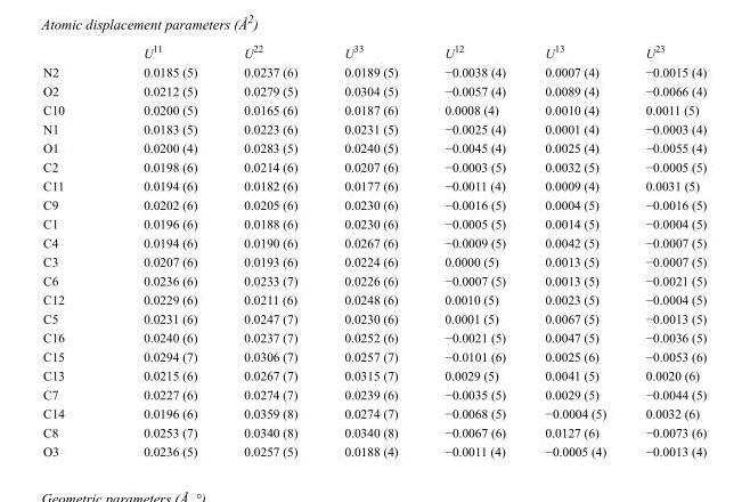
<table><thead><tr><td></td><td>U<sup>11</sup></td><td>U<sup>22</sup></td><td>U<sup>33</sup></td><td>U<sup>12</sup></td><td>U<sup>13</sup></td><td>U<sup>23</sup></td></tr></thead><tbody><tr><td>N2</td><td>0.0185 (5)</td><td>0.0237 (6)</td><td>0.0189 (5)</td><td>−0.0038 (4)</td><td>0.0007 (4)</td><td>−0.0015 (4)</td></tr><tr><td>O2</td><td>0.0212 (5)</td><td>0.0279 (5)</td><td>0.0304 (5)</td><td>−0.0057 (4)</td><td>0.0089 (4)</td><td>−0.0066 (4)</td></tr><tr><td>C10</td><td>0.0200 (5)</td><td>0.0165 (6)</td><td>0.0187 (6)</td><td>0.0008 (4)</td><td>0.0010 (4)</td><td>0.0011 (5)</td></tr><tr><td>N1</td><td>0.0183 (5)</td><td>0.0223 (6)</td><td>0.0231 (5)</td><td>−0.0025 (4)</td><td>0.0001 (4)</td><td>−0.0003 (4)</td></tr><tr><td>O1</td><td>0.0200 (4)</td><td>0.0283 (5)</td><td>0.0240 (5)</td><td>−0.0045 (4)</td><td>0.0025 (4)</td><td>−0.0055 (4)</td></tr><tr><td>C2</td><td>0.0198 (6)</td><td>0.0214 (6)</td><td>0.0207 (6)</td><td>−0.0003 (5)</td><td>0.0032 (5)</td><td>−0.0005 (5)</td></tr><tr><td>C11</td><td>0.0194 (6)</td><td>0.0182 (6)</td><td>0.0177 (6)</td><td>−0.0011 (4)</td><td>0.0009 (4)</td><td>0.0031 (5)</td></tr><tr><td>C9</td><td>0.0202 (6)</td><td>0.0205 (6)</td><td>0.0230 (6)</td><td>−0.0016 (5)</td><td>0.0004 (5)</td><td>−0.0016 (5)</td></tr><tr><td>C1</td><td>0.0196 (6)</td><td>0.0188 (6)</td><td>0.0230 (6)</td><td>−0.0005 (5)</td><td>0.0014 (5)</td><td>−0.0004 (5)</td></tr><tr><td>C4</td><td>0.0194 (6)</td><td>0.0190 (6)</td><td>0.0267 (6)</td><td>−0.0009 (5)</td><td>0.0042 (5)</td><td>−0.0007 (5)</td></tr><tr><td>C3</td><td>0.0207 (6)</td><td>0.0193 (6)</td><td>0.0224 (6)</td><td>0.0000 (5)</td><td>0.0013 (5)</td><td>−0.0007 (5)</td></tr><tr><td>C6</td><td>0.0236 (6)</td><td>0.0233 (7)</td><td>0.0226 (6)</td><td>−0.0007 (5)</td><td>0.0013 (5)</td><td>−0.0021 (5)</td></tr><tr><td>C12</td><td>0.0229 (6)</td><td>0.0211 (6)</td><td>0.0248 (6)</td><td>0.0010 (5)</td><td>0.0023 (5)</td><td>−0.0004 (5)</td></tr><tr><td>C5</td><td>0.0231 (6)</td><td>0.0247 (7)</td><td>0.0230 (6)</td><td>0.0001 (5)</td><td>0.0067 (5)</td><td>−0.0013 (5)</td></tr><tr><td>C16</td><td>0.0240 (6)</td><td>0.0237 (7)</td><td>0.0252 (6)</td><td>−0.0021 (5)</td><td>0.0047 (5)</td><td>−0.0036 (5)</td></tr><tr><td>C15</td><td>0.0294 (7)</td><td>0.0306 (7)</td><td>0.0257 (7)</td><td>−0.0101 (6)</td><td>0.0025 (6)</td><td>−0.0053 (6)</td></tr><tr><td>C13</td><td>0.0215 (6)</td><td>0.0267 (7)</td><td>0.0315 (7)</td><td>0.0029 (5)</td><td>0.0041 (5)</td><td>0.0020 (6)</td></tr><tr><td>C7</td><td>0.0227 (6)</td><td>0.0274 (7)</td><td>0.0239 (6)</td><td>−0.0035 (5)</td><td>0.0029 (5)</td><td>−0.0044 (5)</td></tr><tr><td>C14</td><td>0.0196 (6)</td><td>0.0359 (8)</td><td>0.0274 (7)</td><td>−0.0068 (5)</td><td>−0.0004 (5)</td><td>0.0032 (6)</td></tr><tr><td>C8</td><td>0.0253 (7)</td><td>0.0340 (8)</td><td>0.0340 (8)</td><td>−0.0067 (6)</td><td>0.0127 (6)</td><td>−0.0073 (6)</td></tr><tr><td>O3</td><td>0.0236 (5)</td><td>0.0257 (5)</td><td>0.0188 (4)</td><td>−0.0011 (4)</td><td>−0.0005 (4)</td><td>−0.0013 (4)</td></tr></tbody></table>